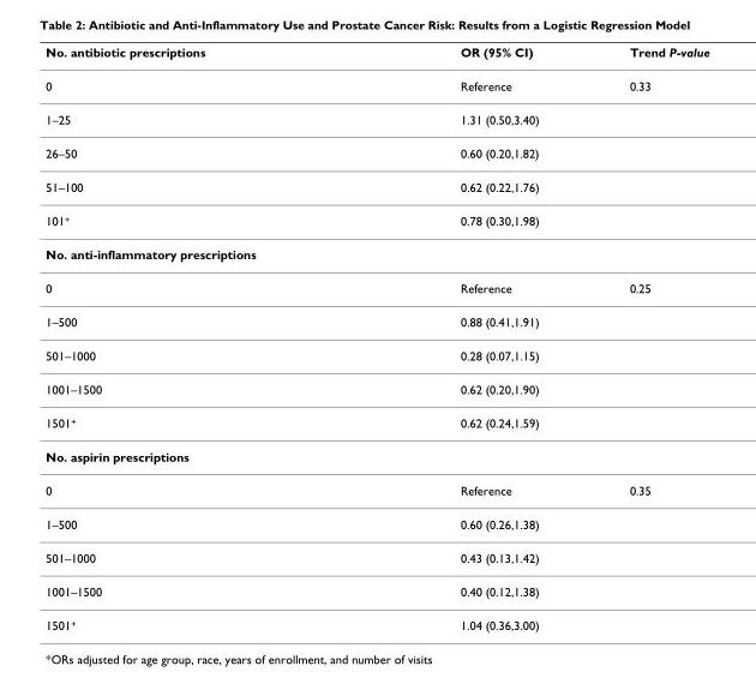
<table><thead><tr><td>No. antibiotic prescriptions</td><td>OR (95% CI)</td><td>Trend P-value</td></tr></thead><tbody><tr><td>0</td><td>Reference</td><td>0.33</td></tr><tr><td>1–25</td><td>1.31 (0.50,3.40)</td><td></td></tr><tr><td>26–50</td><td>0.60 (0.20,1.82)</td><td></td></tr><tr><td>51–100</td><td>0.62 (0.22,1.76)</td><td></td></tr><tr><td>101<sup>+</sup></td><td>0.78 (0.30,1.98)</td><td></td></tr><tr><td colspan="3">No. anti-inflammatory prescriptions</td></tr><tr><td>0</td><td>Reference</td><td>0.25</td></tr><tr><td>1–500</td><td>0.88 (0.41,1.91)</td><td></td></tr><tr><td>501–1000</td><td>0.28 (0.07,1.15)</td><td></td></tr><tr><td>1001–1500</td><td>0.62 (0.20,1.90)</td><td></td></tr><tr><td>1501<sup>+</sup></td><td>0.62 (0.24,1.59)</td><td></td></tr><tr><td colspan="3">No. aspirin prescriptions</td></tr><tr><td>0</td><td>Reference</td><td>0.35</td></tr><tr><td>1–500</td><td>0.60 (0.26,1.38)</td><td></td></tr><tr><td>501–1000</td><td>0.43 (0.13,1.42)</td><td></td></tr><tr><td>1001–1500</td><td>0.40 (0.12,1.38)</td><td></td></tr><tr><td>1501<sup>+</sup></td><td>1.04 (0.36,3.00)</td><td></td></tr></tbody></table>